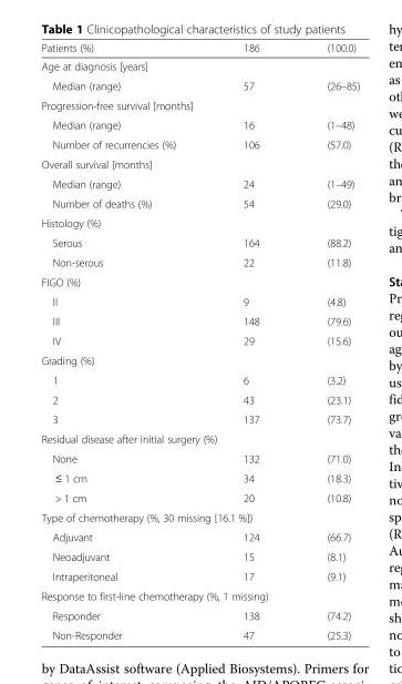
<table><thead><tr><td>Patients (%)</td><td>186</td><td>(100.0)</td></tr></thead><tbody><tr><td colspan="3">Age at diagnosis [years]</td></tr><tr><td>Median (range)</td><td>57</td><td>(26–85)</td></tr><tr><td colspan="3">Progression-free survival [months]</td></tr><tr><td>Median (range)</td><td>16</td><td>(1–48)</td></tr><tr><td>Number of recurrencies (%)</td><td>106</td><td>(57.0)</td></tr><tr><td colspan="3">Overall survival [months]</td></tr><tr><td>Median (range)</td><td>24</td><td>(1–49)</td></tr><tr><td>Number of deaths (%)</td><td>54</td><td>(29.0)</td></tr><tr><td colspan="3">Histology (%)</td></tr><tr><td>Serous</td><td>164</td><td>(88.2)</td></tr><tr><td>Non-serous</td><td>22</td><td>(11.8)</td></tr><tr><td colspan="3">FIGO (%)</td></tr><tr><td>II</td><td>9</td><td>(4.8)</td></tr><tr><td>III</td><td>148</td><td>(79.6)</td></tr><tr><td>IV</td><td>29</td><td>(15.6)</td></tr><tr><td colspan="3">Grading (%)</td></tr><tr><td>1</td><td>6</td><td>(3.2)</td></tr><tr><td>2</td><td>43</td><td>(23.1)</td></tr><tr><td>3</td><td>137</td><td>(73.7)</td></tr><tr><td colspan="3">Residual disease after initial surgery (%)</td></tr><tr><td>None</td><td>132</td><td>(71.0)</td></tr><tr><td>≤ 1 cm</td><td>34</td><td>(18.3)</td></tr><tr><td>&gt; 1 cm</td><td>20</td><td>(10.8)</td></tr><tr><td colspan="3">Type of chemotherapy (%, 30 missing [16.1 %])</td></tr><tr><td>Adjuvant</td><td>124</td><td>(66.7)</td></tr><tr><td>Neoadjuvant</td><td>15</td><td>(8.1)</td></tr><tr><td>Intraperitoneal</td><td>17</td><td>(9.1)</td></tr><tr><td colspan="3">Response to first-line chemotherapy (%, 1 missing)</td></tr><tr><td>Responder</td><td>138</td><td>(74.2)</td></tr><tr><td>Non-Responder</td><td>47</td><td>(25.3)</td></tr></tbody></table>